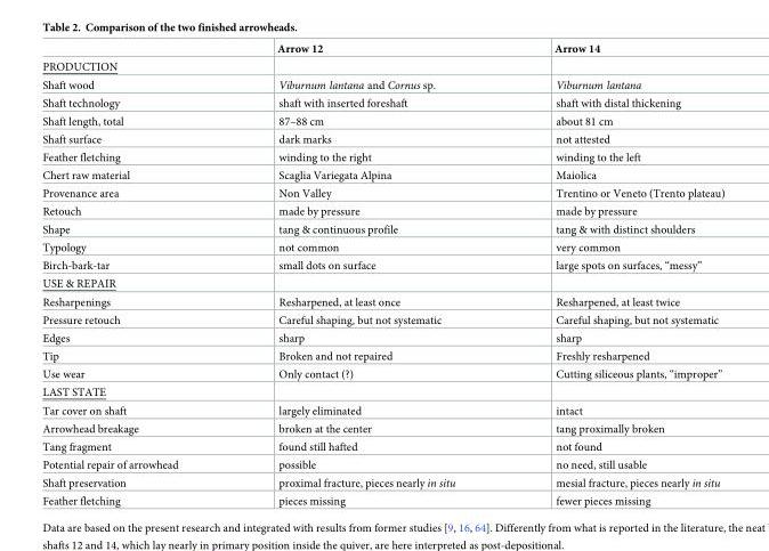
<table><thead><tr><td></td><td>Arrow 12</td><td>Arrow 14</td></tr></thead><tbody><tr><td colspan="3">PRODUCTION</td></tr><tr><td>Shaft wood</td><td>Viburnum lantana and Cornus sp.</td><td>Viburnum lantana</td></tr><tr><td>Shaft technology</td><td>shaft with inserted foreshaft</td><td>shaft with distal thickening</td></tr><tr><td>Shaft length, total</td><td>87–88 cm</td><td>about 81 cm</td></tr><tr><td>Shaft surface</td><td>dark marks</td><td>not attested</td></tr><tr><td>Feather fletching</td><td>winding to the right</td><td>winding to the left</td></tr><tr><td>Chert raw material</td><td>Scaglia Variegata Alpina</td><td>Maiolica</td></tr><tr><td>Provenance area</td><td>Non Valley</td><td>Trentino or Veneto (Trento plateau)</td></tr><tr><td>Retouch</td><td>made by pressure</td><td>made by pressure</td></tr><tr><td>Shape</td><td>tang &amp; continuous profile</td><td>tang &amp; with distinct shoulders</td></tr><tr><td>Typology</td><td>not common</td><td>very common</td></tr><tr><td>Birch-bark-tar</td><td>small dots on surface</td><td>large spots on surfaces, “messy”</td></tr><tr><td colspan="3">USE &amp; REPAIR</td></tr><tr><td>Resharpenings</td><td>Resharpened, at least once</td><td>Resharpened, at least twice</td></tr><tr><td>Pressure retouch</td><td>Careful shaping, but not systematic</td><td>Careful shaping, but not systematic</td></tr><tr><td>Edges</td><td>sharp</td><td>sharp</td></tr><tr><td>Tip</td><td>Broken and not repaired</td><td>Freshly resharpened</td></tr><tr><td>Use wear</td><td>Only contact (?)</td><td>Cutting siliceous plants, “improper”</td></tr><tr><td colspan="3">LAST STATE</td></tr><tr><td>Tar cover on shaft</td><td>largely eliminated</td><td>intact</td></tr><tr><td>Arrowhead breakage</td><td>broken at the center</td><td>tang proximally broken</td></tr><tr><td>Tang fragment</td><td>found still hafted</td><td>not found</td></tr><tr><td>Potential repair of arrowhead</td><td>possible</td><td>no need, still usable</td></tr><tr><td>Shaft preservation</td><td>proximal fracture, pieces nearly in situ</td><td>mesial fracture, pieces nearly in situ</td></tr><tr><td>Feather fletching</td><td>pieces missing</td><td>fewer pieces missing</td></tr></tbody></table>